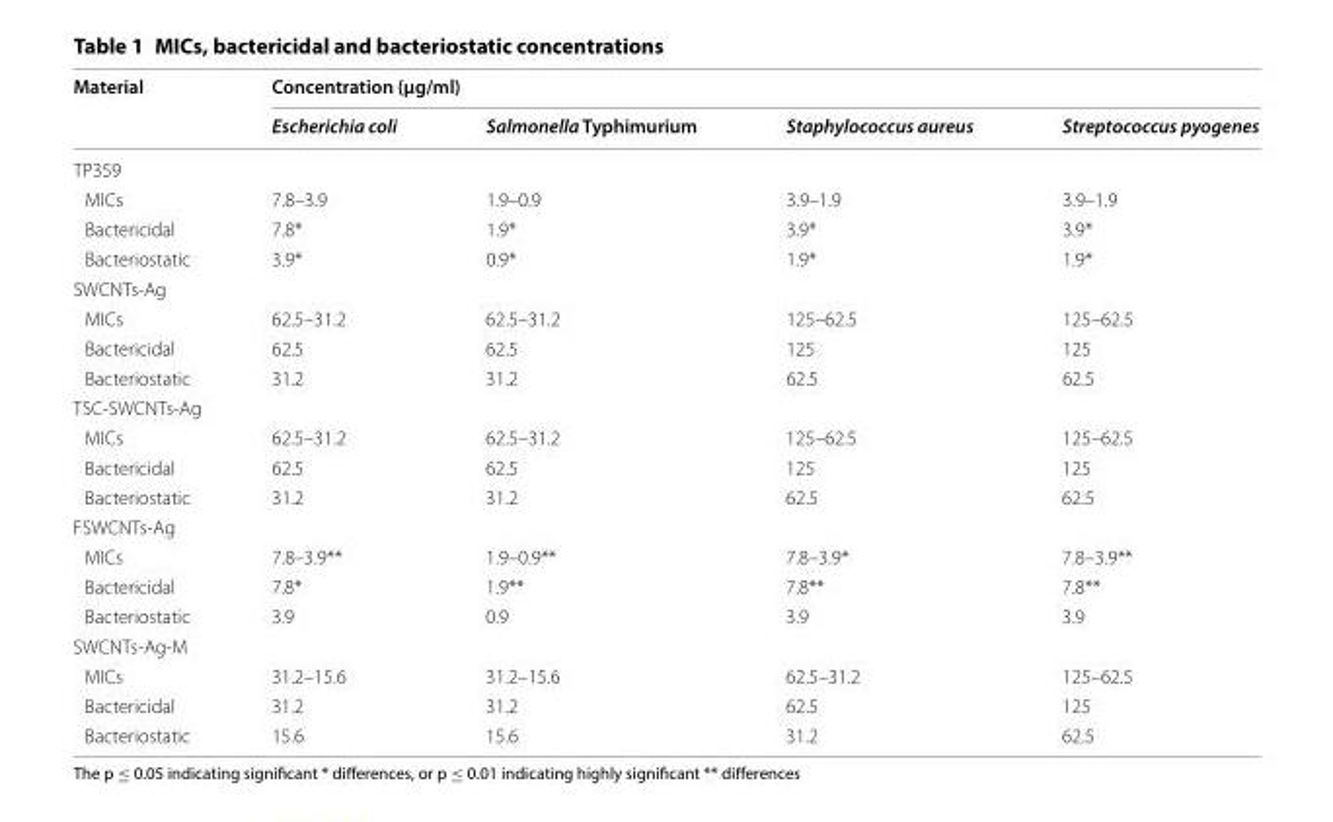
<table><thead><tr><td rowspan="2">Material</td><td colspan="4">Concentration (µg/ml)</td></tr><tr><td>Escherichia coli</td><td>Salmonella Typhimurium</td><td>Staphylococcus aureus</td><td>Streptococcus pyogenes</td></tr></thead><tbody><tr><td colspan="5">TP359</td></tr><tr><td>MICs</td><td>7.8–3.9</td><td>1.9–0.9</td><td>3.9–1.9</td><td>3.9–1.9</td></tr><tr><td>Bactericidal</td><td>7.8*</td><td>1.9*</td><td>3.9*</td><td>3.9*</td></tr><tr><td>Bacteriostatic</td><td>3.9*</td><td>0.9*</td><td>1.9*</td><td>1.9*</td></tr><tr><td colspan="5">SWCNTs-Ag</td></tr><tr><td>MICs</td><td>62.5–31.2</td><td>62.5–31.2</td><td>125–62.5</td><td>125–62.5</td></tr><tr><td>Bactericidal</td><td>62.5</td><td>62.5</td><td>125</td><td>125</td></tr><tr><td>Bacteriostatic</td><td>31.2</td><td>31.2</td><td>62.5</td><td>62.5</td></tr><tr><td colspan="5">TSC-SWCNTs-Ag</td></tr><tr><td>MICs</td><td>62.5–31.2</td><td>62.5–31.2</td><td>125–62.5</td><td>125–62.5</td></tr><tr><td>Bactericidal</td><td>62.5</td><td>62.5</td><td>125</td><td>125</td></tr><tr><td>Bacteriostatic</td><td>31.2</td><td>31.2</td><td>62.5</td><td>62.5</td></tr><tr><td colspan="5">FSWCNTs-Ag</td></tr><tr><td>MICs</td><td>7.8–3.9**</td><td>1.9–0.9**</td><td>7.8–3.9*</td><td>7.8–3.9**</td></tr><tr><td>Bactericidal</td><td>7.8*</td><td>1.9**</td><td>7.8**</td><td>7.8**</td></tr><tr><td>Bacteriostatic</td><td>3.9</td><td>0.9</td><td>3.9</td><td>3.9</td></tr><tr><td colspan="5">SWCNTs-Ag-M</td></tr><tr><td>MICs</td><td>31.2–15.6</td><td>31.2–15.6</td><td>62.5–31.2</td><td>125–62.5</td></tr><tr><td>Bactericidal</td><td>31.2</td><td>31.2</td><td>62.5</td><td>125</td></tr><tr><td>Bacteriostatic</td><td>15.6</td><td>15.6</td><td>31.2</td><td>62.5</td></tr></tbody></table>